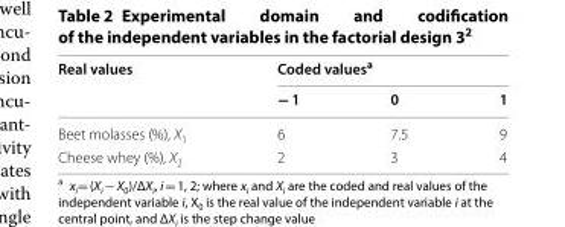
<table><thead><tr><td rowspan="2">Real values</td><td colspan="3">Coded values<sup>a</sup></td></tr><tr><td>− 1</td><td>0</td><td>1</td></tr></thead><tbody><tr><td>Beet molasses (%), X<sub>1</sub></td><td>6</td><td>7.5</td><td>9</td></tr><tr><td>Cheese whey (%), X<sub>2</sub></td><td>2</td><td>3</td><td>4</td></tr></tbody></table>